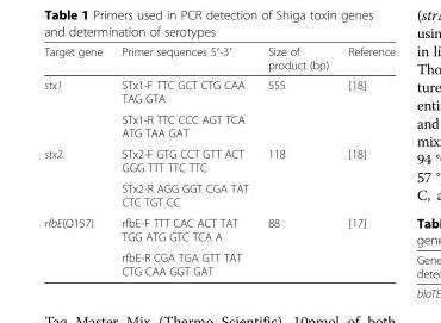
<table><thead><tr><td>Target gene</td><td>Primer sequences 5′-3′</td><td>Size of product (bp)</td><td>Reference</td></tr></thead><tbody><tr><td rowspan="2">stx1</td><td>STx1-F TTC GCT CTG CAA TAG GTA</td><td rowspan="2">555</td><td rowspan="2">[18]</td></tr><tr><td>STx1-R TTC CCC AGT TCA ATG TAA GAT</td></tr><tr><td rowspan="2">stx2</td><td>STx2-F GTG CCT GTT ACT GGG TTT TTC TTC</td><td rowspan="2">118</td><td rowspan="2">[18]</td></tr><tr><td>STx2-R AGG GGT CGA TAT CTC TGT CC</td></tr><tr><td rowspan="2">rfbE(O157)</td><td>rfbE-F TTT CAC ACT TAT TGG ATG GTC TCA A</td><td rowspan="2">88</td><td rowspan="2">[17]</td></tr><tr><td>rfbE-R CGA TGA GTT TAT CTG CAA GGT GAT</td></tr></tbody></table>